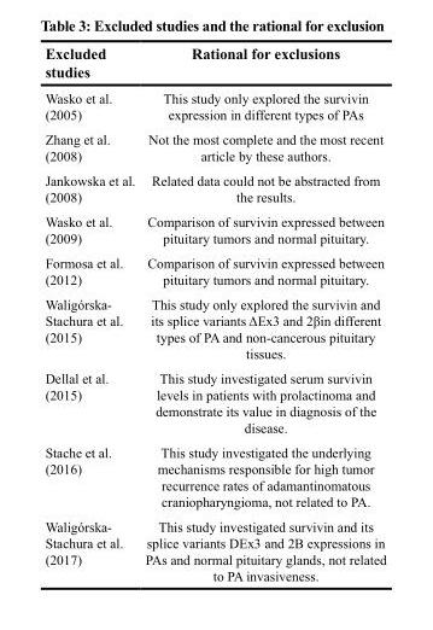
<table><thead><tr><td>Excluded studies</td><td>Rational for exclusions</td></tr></thead><tbody><tr><td>Wasko et al. (2005)</td><td>This study only explored the survivin expression in different types of PAs</td></tr><tr><td>Zhang et al. (2008)</td><td>Not the most complete and the most recent article by these authors.</td></tr><tr><td>Jankowska et al. (2008)</td><td>Related data could not be abstracted from the results.</td></tr><tr><td>Wasko et al. (2009)</td><td>Comparison of survivin expressed between pituitary tumors and normal pituitary.</td></tr><tr><td>Formosa et al. (2012)</td><td>Comparison of survivin expressed between pituitary tumors and normal pituitary.</td></tr><tr><td>Waligórska- Stachura et al. (2015)</td><td>This study only explored the survivin and its splice variants ΔEx3 and 2βin different types of PA and non-cancerous pituitary tissues.</td></tr><tr><td>Dellal et al. (2015)</td><td>This study investigated serum survivin levels in patients with prolactinoma and demonstrate its value in diagnosis of the disease.</td></tr><tr><td>Stache et al. (2016)</td><td>This study investigated the underlying mechanisms responsible for high tumor recurrence rates of adamantinomatous craniopharyngioma, not related to PA.</td></tr><tr><td>Waligórska- Stachura et al. (2017)</td><td>This study investigated survivin and its splice variants DEx3 and 2B expressions in PAs and normal pituitary glands, not related to PA invasiveness.</td></tr></tbody></table>